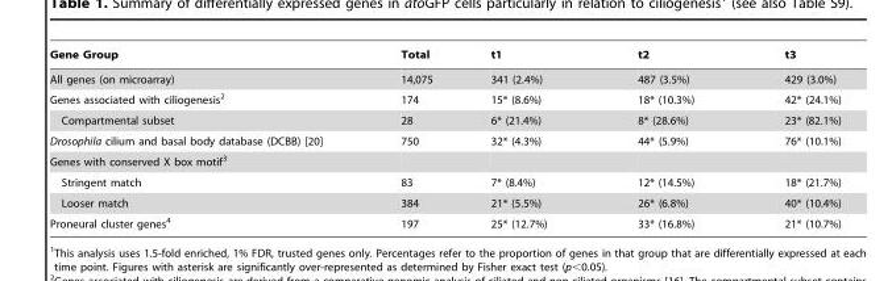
<table><thead><tr><td>Gene Group</td><td>Total</td><td>t1</td><td>t2</td><td>t3</td></tr></thead><tbody><tr><td>All genes (on microarray)</td><td>14,075</td><td>341 (2.4%)</td><td>487 (3.5%)</td><td>429 (3.0%)</td></tr><tr><td>Genes associated with ciliogenesis<sup>2</sup></td><td>174</td><td>15* (8.6%)</td><td>18* (10.3%)</td><td>42* (24.1%)</td></tr><tr><td>Compartmental subset</td><td>28</td><td>6* (21.4%)</td><td>8* (28.6%)</td><td>23* (82.1%)</td></tr><tr><td>Drosophila cilium and basal body database (DCBB) [20]</td><td>750</td><td>32* (4.3%)</td><td>44* (5.9%)</td><td>76* (10.1%)</td></tr><tr><td colspan="5">Genes with conserved X box motif<sup>3</sup></td></tr><tr><td>Stringent match</td><td>83</td><td>7* (8.4%)</td><td>12* (14.5%)</td><td>18* (21.7%)</td></tr><tr><td>Looser match</td><td>384</td><td>21* (5.5%)</td><td>26* (6.8%)</td><td>40* (10.4%)</td></tr><tr><td>Proneural cluster genes<sup>4</sup></td><td>197</td><td>25* (12.7%)</td><td>33* (16.8%)</td><td>21* (10.7%)</td></tr></tbody></table>